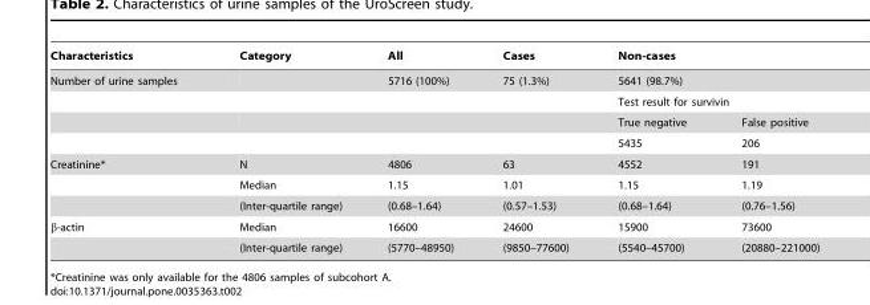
<table><thead><tr><td rowspan="4">Characteristics Number of urine samples</td><td rowspan="4">Category</td><td rowspan="4">All 5716 (100%)</td><td rowspan="4">Cases 75 (1.3%)</td><td rowspan="3" colspan="2">Non-cases 5641 (98.7%) Test result for survivin</td></tr><tr></tr><tr></tr><tr><td>True negative</td><td>False positive</td></tr></thead><tbody><tr><td></td><td></td><td></td><td></td><td>5435</td><td>206</td></tr><tr><td rowspan="3">Creatinine*</td><td>N</td><td>4806</td><td>63</td><td>4552</td><td>191</td></tr><tr><td>Median</td><td>1.15</td><td>1.01</td><td>1.15</td><td>1.19</td></tr><tr><td>(Inter-quartile range)</td><td>(0.68–1.64)</td><td>(0.57–1.53)</td><td>(0.68–1.64)</td><td>(0.76–1.56)</td></tr><tr><td rowspan="2">β-actin</td><td>Median</td><td>16600</td><td>24600</td><td>15900</td><td>73600</td></tr><tr><td>(Inter-quartile range)</td><td>(5770–48950)</td><td>(9850–77600)</td><td>(5540–45700)</td><td>(20880–221000)</td></tr></tbody></table>